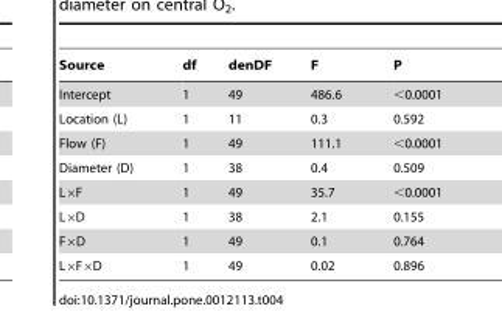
<table><thead><tr><td>Source</td><td>df</td><td>denDF</td><td>F</td><td>P</td></tr></thead><tbody><tr><td>Intercept</td><td>1</td><td>49</td><td>486.6</td><td>&lt;0.0001</td></tr><tr><td>Location (L)</td><td>1</td><td>11</td><td>0.3</td><td>0.592</td></tr><tr><td>Flow (F)</td><td>1</td><td>49</td><td>111.1</td><td>&lt;0.0001</td></tr><tr><td>Diameter (D)</td><td>1</td><td>38</td><td>0.4</td><td>0.509</td></tr><tr><td>L×F</td><td>1</td><td>49</td><td>35.7</td><td>&lt;0.0001</td></tr><tr><td>L×D</td><td>1</td><td>38</td><td>2.1</td><td>0.155</td></tr><tr><td>F×D</td><td>1</td><td>49</td><td>0.1</td><td>0.764</td></tr><tr><td>L×F×D</td><td>1</td><td>49</td><td>0.02</td><td>0.896</td></tr></tbody></table>